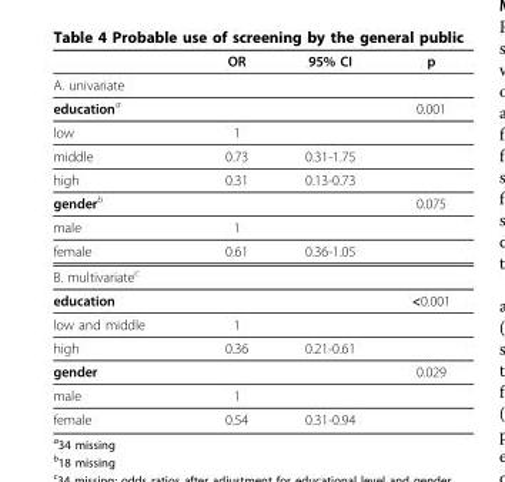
<table><thead><tr><td></td><td>OR</td><td>95% CI</td><td>p</td></tr></thead><tbody><tr><td colspan="4">A. univariate</td></tr><tr><td>educationa</td><td></td><td></td><td>0.001</td></tr><tr><td>low</td><td>1</td><td></td><td></td></tr><tr><td>middle</td><td>0.73</td><td>0.31-1.75</td><td></td></tr><tr><td>high</td><td>0.31</td><td>0.13-0.73</td><td></td></tr><tr><td>genderb</td><td></td><td></td><td>0.075</td></tr><tr><td>male</td><td>1</td><td></td><td></td></tr><tr><td>female</td><td>0.61</td><td>0.36-1.05</td><td></td></tr><tr><td colspan="4">B. multivariatec</td></tr><tr><td>education</td><td></td><td></td><td>&lt;0.001</td></tr><tr><td>low and middle</td><td>1</td><td></td><td></td></tr><tr><td>high</td><td>0.36</td><td>0.21-0.61</td><td></td></tr><tr><td>gender</td><td></td><td></td><td>0.029</td></tr><tr><td>male</td><td>1</td><td></td><td></td></tr><tr><td>female</td><td>0.54</td><td>0.31-0.94</td><td></td></tr></tbody></table>